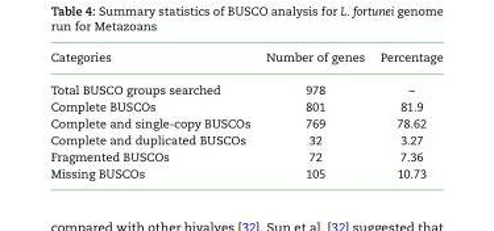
<table><thead><tr><td>Categories</td><td>Number of genes</td><td>Percentage</td></tr></thead><tbody><tr><td>Total BUSCO groups searched</td><td>978</td><td>–</td></tr><tr><td>Complete BUSCOs</td><td>801</td><td>81.9</td></tr><tr><td>Complete and single-copy BUSCOs</td><td>769</td><td>78.62</td></tr><tr><td>Complete and duplicated BUSCOs</td><td>32</td><td>3.27</td></tr><tr><td>Fragmented BUSCOs</td><td>72</td><td>7.36</td></tr><tr><td>Missing BUSCOs</td><td>105</td><td>10.73</td></tr></tbody></table>